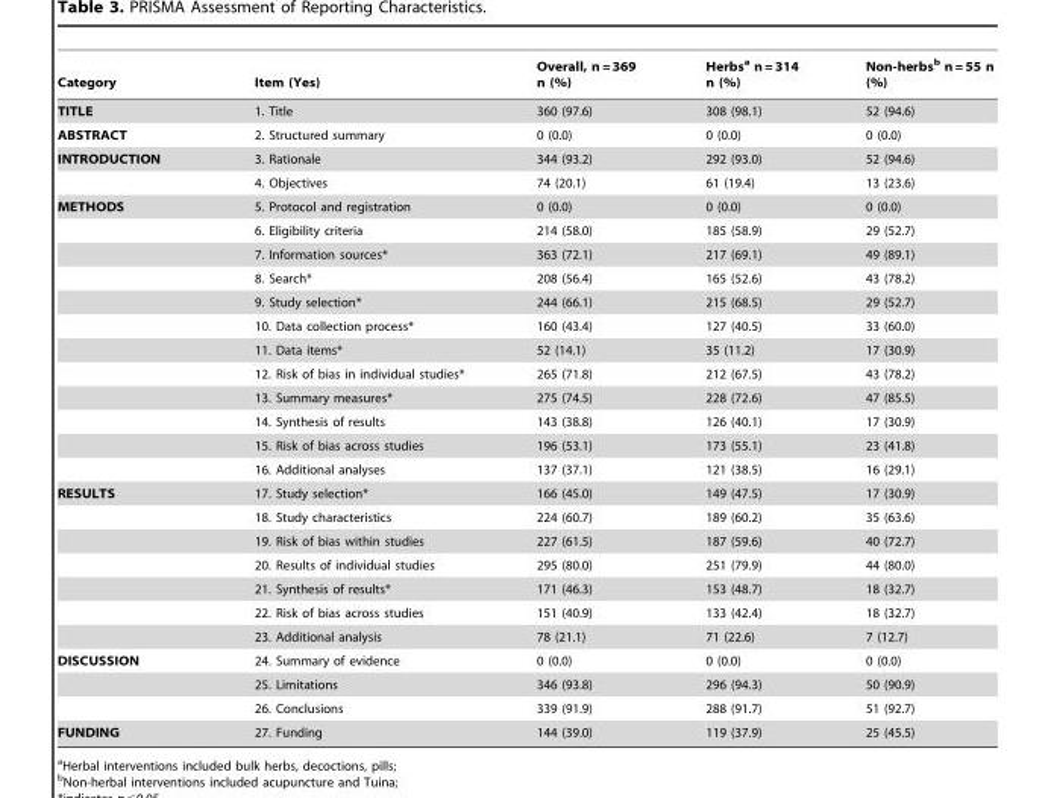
<table><thead><tr><td>Category</td><td>Item (Yes)</td><td>Overall, n = 369 n (%)</td><td>Herbs<sup>a</sup> n = 314 n (%)</td><td>Non-herbs<sup>b</sup> n = 55 n (%)</td></tr></thead><tbody><tr><td>TITLE</td><td>1. Title</td><td>360 (97.6)</td><td>308 (98.1)</td><td>52 (94.6)</td></tr><tr><td>ABSTRACT</td><td>2. Structured summary</td><td>0 (0.0)</td><td>0 (0.0)</td><td>0 (0.0)</td></tr><tr><td rowspan="2">INTRODUCTION</td><td>3. Rationale</td><td>344 (93.2)</td><td>292 (93.0)</td><td>52 (94.6)</td></tr><tr><td>4. Objectives</td><td>74 (20.1)</td><td>61 (19.4)</td><td>13 (23.6)</td></tr><tr><td rowspan="12">METHODS</td><td>5. Protocol and registration</td><td>0 (0.0)</td><td>0 (0.0)</td><td>0 (0.0)</td></tr><tr><td>6. Eligibility criteria</td><td>214 (58.0)</td><td>185 (58.9)</td><td>29 (52.7)</td></tr><tr><td>7. Information sources*</td><td>363 (72.1)</td><td>217 (69.1)</td><td>49 (89.1)</td></tr><tr><td>8. Search*</td><td>208 (56.4)</td><td>165 (52.6)</td><td>43 (78.2)</td></tr><tr><td>9. Study selection*</td><td>244 (66.1)</td><td>215 (68.5)</td><td>29 (52.7)</td></tr><tr><td>10. Data collection process*</td><td>160 (43.4)</td><td>127 (40.5)</td><td>33 (60.0)</td></tr><tr><td>11. Data items*</td><td>52 (14.1)</td><td>35 (11.2)</td><td>17 (30.9)</td></tr><tr><td>12. Risk of bias in individual studies*</td><td>265 (71.8)</td><td>212 (67.5)</td><td>43 (78.2)</td></tr><tr><td>13. Summary measures*</td><td>275 (74.5)</td><td>228 (72.6)</td><td>47 (85.5)</td></tr><tr><td>14. Synthesis of results</td><td>143 (38.8)</td><td>126 (40.1)</td><td>17 (30.9)</td></tr><tr><td>15. Risk of bias across studies</td><td>196 (53.1)</td><td>173 (55.1)</td><td>23 (41.8)</td></tr><tr><td>16. Additional analyses</td><td>137 (37.1)</td><td>121 (38.5)</td><td>16 (29.1)</td></tr><tr><td rowspan="7">RESULTS</td><td>17. Study selection*</td><td>166 (45.0)</td><td>149 (47.5)</td><td>17 (30.9)</td></tr><tr><td>18. Study characteristics</td><td>224 (60.7)</td><td>189 (60.2)</td><td>35 (63.6)</td></tr><tr><td>19. Risk of bias within studies</td><td>227 (61.5)</td><td>187 (59.6)</td><td>40 (72.7)</td></tr><tr><td>20. Results of individual studies</td><td>295 (80.0)</td><td>251 (79.9)</td><td>44 (80.0)</td></tr><tr><td>21. Synthesis of results*</td><td>171 (46.3)</td><td>153 (48.7)</td><td>18 (32.7)</td></tr><tr><td>22. Risk of bias across studies</td><td>151 (40.9)</td><td>133 (42.4)</td><td>18 (32.7)</td></tr><tr><td>23. Additional analysis</td><td>78 (21.1)</td><td>71 (22.6)</td><td>7 (12.7)</td></tr><tr><td rowspan="3">DISCUSSION</td><td>24. Summary of evidence</td><td>0 (0.0)</td><td>0 (0.0)</td><td>0 (0.0)</td></tr><tr><td>25. Limitations</td><td>346 (93.8)</td><td>296 (94.3)</td><td>50 (90.9)</td></tr><tr><td>26. Conclusions</td><td>339 (91.9)</td><td>288 (91.7)</td><td>51 (92.7)</td></tr><tr><td>FUNDING</td><td>27. Funding</td><td>144 (39.0)</td><td>119 (37.9)</td><td>25 (45.5)</td></tr></tbody></table>